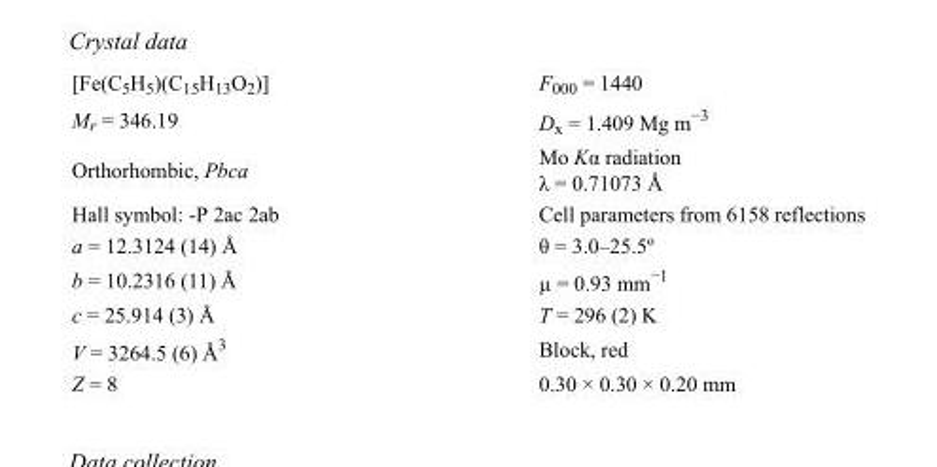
<table><tbody><tr><td>[Fe(C<sub>5</sub>H<sub>5</sub>)(C<sub>15</sub>H<sub>13</sub>O<sub>2</sub>)]</td><td>F<sub>000</sub> = 1440</td></tr><tr><td>M<sub>r</sub> = 346.19</td><td>D<sub>x</sub> = 1.409 Mg m<sup>−3</sup></td></tr><tr><td>Orthorhombic, Pbca</td><td>Mo Kα radiation λ = 0.71073 Å</td></tr><tr><td>Hall symbol: -P 2ac 2ab</td><td>Cell parameters from 6158 reflections</td></tr><tr><td>a = 12.3124 (14) Å</td><td>θ = 3.0–25.5º</td></tr><tr><td>b = 10.2316 (11) Å</td><td>µ = 0.93 mm<sup>−1</sup></td></tr><tr><td>c = 25.914 (3) Å</td><td>T = 296 (2) K</td></tr><tr><td>V = 3264.5 (6) Å<sup>3</sup></td><td>Block, red</td></tr><tr><td>Z = 8</td><td>0.30 × 0.30 × 0.20 mm</td></tr></tbody></table>